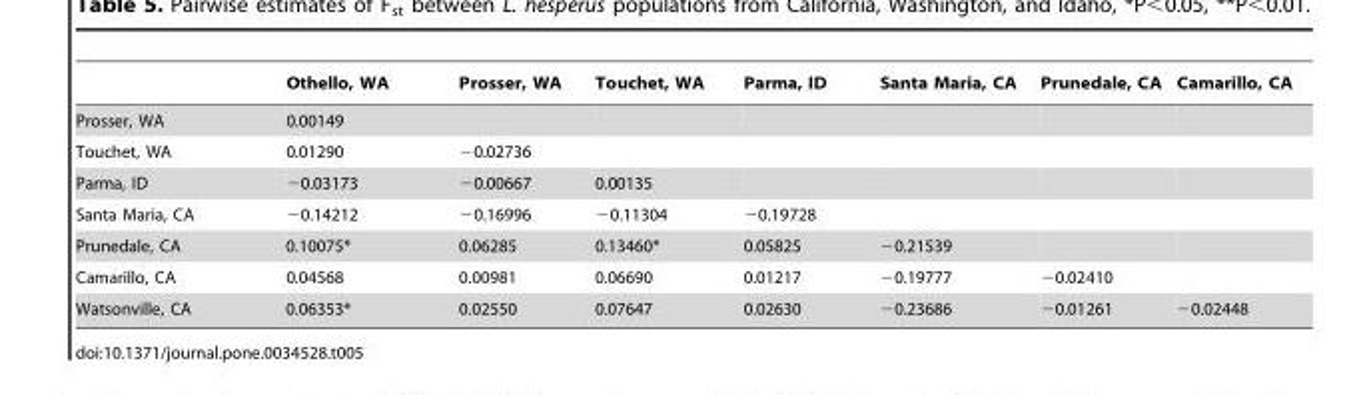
<table><thead><tr><td></td><td>Othello, WA</td><td>Prosser, WA</td><td>Touchet, WA</td><td>Parma, ID</td><td>Santa Maria, CA</td><td>Prunedale, CA</td><td>Camarillo, CA</td></tr></thead><tbody><tr><td>Prosser, WA</td><td>0.00149</td><td></td><td></td><td></td><td></td><td></td><td></td></tr><tr><td>Touchet, WA</td><td>0.01290</td><td>−0.02736</td><td></td><td></td><td></td><td></td><td></td></tr><tr><td>Parma, ID</td><td>−0.03173</td><td>−0.00667</td><td>0.00135</td><td></td><td></td><td></td><td></td></tr><tr><td>Santa Maria, CA</td><td>−0.14212</td><td>−0.16996</td><td>−0.11304</td><td>−0.19728</td><td></td><td></td><td></td></tr><tr><td>Prunedale, CA</td><td>0.10075*</td><td>0.06285</td><td>0.13460*</td><td>0.05825</td><td>−0.21539</td><td></td><td></td></tr><tr><td>Camarillo, CA</td><td>0.04568</td><td>0.00981</td><td>0.06690</td><td>0.01217</td><td>−0.19777</td><td>−0.02410</td><td></td></tr><tr><td>Watsonville, CA</td><td>0.06353*</td><td>0.02550</td><td>0.07647</td><td>0.02630</td><td>−0.23686</td><td>−0.01261</td><td>−0.02448</td></tr></tbody></table>